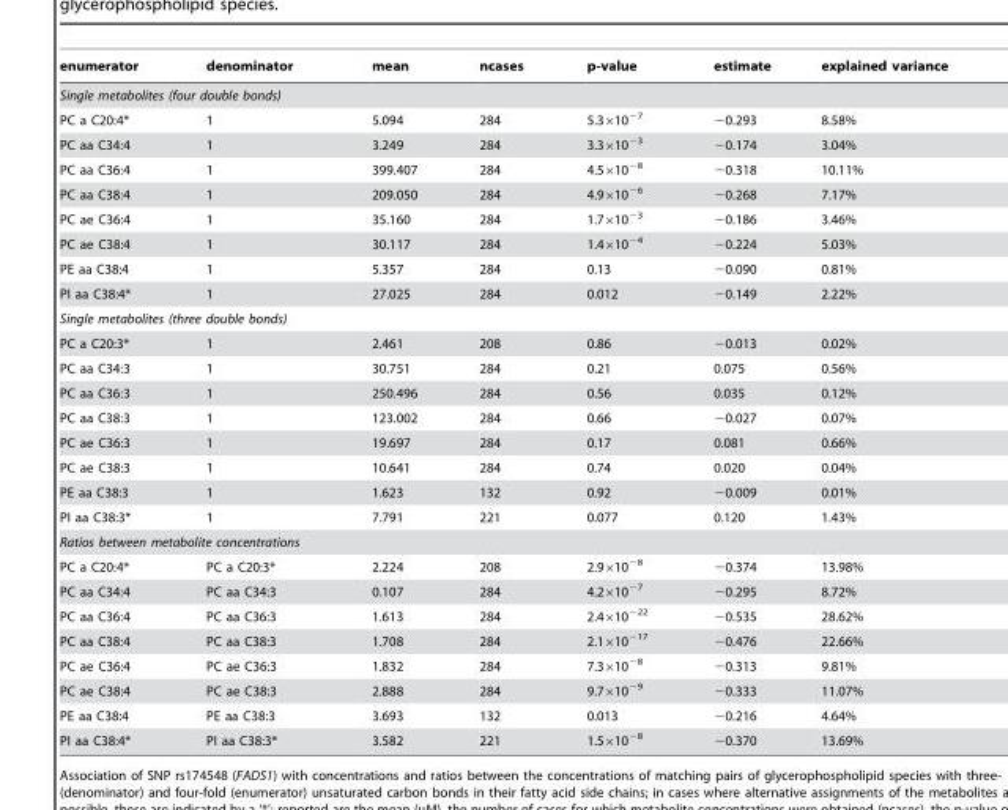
<table><thead><tr><td>enumerator</td><td>denominator</td><td>mean</td><td>ncases</td><td>p-value</td><td>estimate</td><td>explained variance</td></tr></thead><tbody><tr><td colspan="7">Single metabolites (four double bonds)</td></tr><tr><td>PC a C20:4*</td><td>1</td><td>5.094</td><td>284</td><td>5.3×10<sup>−7</sup></td><td>−0.293</td><td>8.58%</td></tr><tr><td>PC aa C34:4</td><td>1</td><td>3.249</td><td>284</td><td>3.3×10<sup>−3</sup></td><td>−0.174</td><td>3.04%</td></tr><tr><td>PC aa C36:4</td><td>1</td><td>399.407</td><td>284</td><td>4.5×10<sup>−8</sup></td><td>−0.318</td><td>10.11%</td></tr><tr><td>PC aa C38:4</td><td>1</td><td>209.050</td><td>284</td><td>4.9×10<sup>−6</sup></td><td>−0.268</td><td>7.17%</td></tr><tr><td>PC ae C36:4</td><td>1</td><td>35.160</td><td>284</td><td>1.7×10<sup>−3</sup></td><td>−0.186</td><td>3.46%</td></tr><tr><td>PC ae C38:4</td><td>1</td><td>30.117</td><td>284</td><td>1.4×10<sup>−4</sup></td><td>−0.224</td><td>5.03%</td></tr><tr><td>PE aa C38:4</td><td>1</td><td>5.357</td><td>284</td><td>0.13</td><td>−0.090</td><td>0.81%</td></tr><tr><td>PI aa C38:4*</td><td>1</td><td>27.025</td><td>284</td><td>0.012</td><td>−0.149</td><td>2.22%</td></tr><tr><td colspan="7">Single metabolites (three double bonds)</td></tr><tr><td>PC a C20:3*</td><td>1</td><td>2.461</td><td>208</td><td>0.86</td><td>−0.013</td><td>0.02%</td></tr><tr><td>PC aa C34:3</td><td>1</td><td>30.751</td><td>284</td><td>0.21</td><td>0.075</td><td>0.56%</td></tr><tr><td>PC aa C36:3</td><td>1</td><td>250.496</td><td>284</td><td>0.56</td><td>0.035</td><td>0.12%</td></tr><tr><td>PC aa C38:3</td><td>1</td><td>123.002</td><td>284</td><td>0.66</td><td>−0.027</td><td>0.07%</td></tr><tr><td>PC ae C36:3</td><td>1</td><td>19.697</td><td>284</td><td>0.17</td><td>0.081</td><td>0.66%</td></tr><tr><td>PC ae C38:3</td><td>1</td><td>10.641</td><td>284</td><td>0.74</td><td>0.020</td><td>0.04%</td></tr><tr><td>PE aa C38:3</td><td>1</td><td>1.623</td><td>132</td><td>0.92</td><td>−0.009</td><td>0.01%</td></tr><tr><td>PI aa C38:3*</td><td>1</td><td>7.791</td><td>221</td><td>0.077</td><td>0.120</td><td>1.43%</td></tr><tr><td colspan="7">Ratios between metabolite concentrations</td></tr><tr><td>PC a C20:4*</td><td>PC a C20:3*</td><td>2.224</td><td>208</td><td>2.9×10<sup>−8</sup></td><td>−0.374</td><td>13.98%</td></tr><tr><td>PC aa C34:4</td><td>PC aa C34:3</td><td>0.107</td><td>284</td><td>4.2×10<sup>−7</sup></td><td>−0.295</td><td>8.72%</td></tr><tr><td>PC aa C36:4</td><td>PC aa C36:3</td><td>1.613</td><td>284</td><td>2.4×10<sup>−22</sup></td><td>−0.535</td><td>28.62%</td></tr><tr><td>PC aa C38:4</td><td>PC aa C38:3</td><td>1.708</td><td>284</td><td>2.1×10<sup>−17</sup></td><td>−0.476</td><td>22.66%</td></tr><tr><td>PC ae C36:4</td><td>PC ae C36:3</td><td>1.832</td><td>284</td><td>7.3×10<sup>−8</sup></td><td>−0.313</td><td>9.81%</td></tr><tr><td>PC ae C38:4</td><td>PC ae C38:3</td><td>2.888</td><td>284</td><td>9.7×10<sup>−9</sup></td><td>−0.333</td><td>11.07%</td></tr><tr><td>PE aa C38:4</td><td>PE aa C38:3</td><td>3.693</td><td>132</td><td>0.013</td><td>−0.216</td><td>4.64%</td></tr><tr><td>PI aa C38:4*</td><td>PI aa C38:3*</td><td>3.582</td><td>221</td><td>1.5×10<sup>−8</sup></td><td>−0.370</td><td>13.69%</td></tr></tbody></table>